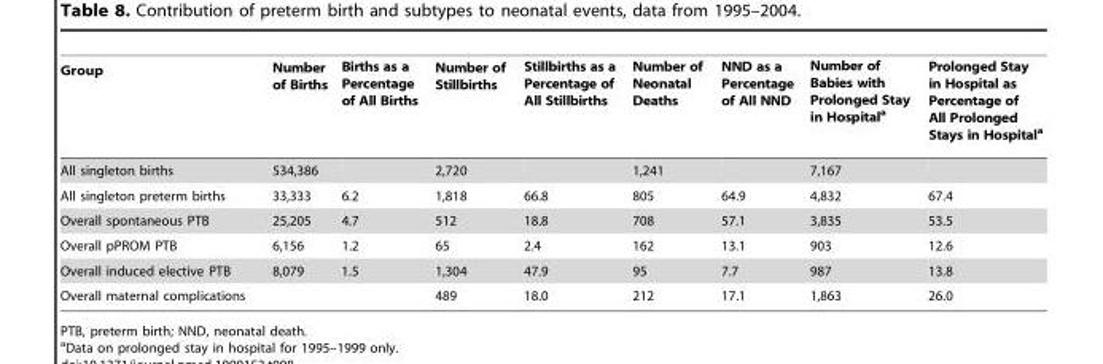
<table><thead><tr><td>Group</td><td>Number of Births</td><td>Births as a Percentage of All Births</td><td>Number of Stillbirths</td><td>Stillbirths as a Percentage of All Stillbirths</td><td>Number of Neonatal Deaths</td><td>NND as a Percentage of All NND</td><td>Number of Babies with Prolonged Stay in Hospital<sup>a</sup></td><td>Prolonged Stay in Hospital as Percentage of All Prolonged Stays in Hospital<sup>a</sup></td></tr></thead><tbody><tr><td>All singleton births</td><td>534,386</td><td></td><td>2,720</td><td></td><td>1,241</td><td></td><td>7,167</td><td></td></tr><tr><td>All singleton preterm births</td><td>33,333</td><td>6.2</td><td>1,818</td><td>66.8</td><td>805</td><td>64.9</td><td>4,832</td><td>67.4</td></tr><tr><td>Overall spontaneous PTB</td><td>25,205</td><td>4.7</td><td>512</td><td>18.8</td><td>708</td><td>57.1</td><td>3,835</td><td>53.5</td></tr><tr><td>Overall pPROM PTB</td><td>6,156</td><td>1.2</td><td>65</td><td>2.4</td><td>162</td><td>13.1</td><td>903</td><td>12.6</td></tr><tr><td>Overall induced elective PTB</td><td>8,079</td><td>1.5</td><td>1,304</td><td>47.9</td><td>95</td><td>7.7</td><td>987</td><td>13.8</td></tr><tr><td>Overall maternal complications</td><td></td><td></td><td>489</td><td>18.0</td><td>212</td><td>17.1</td><td>1,863</td><td>26.0</td></tr></tbody></table>